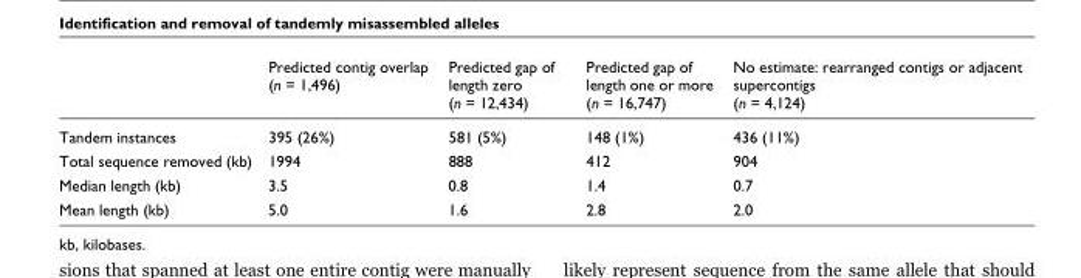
<table><thead><tr><td></td><td>Predicted contig overlap (n = 1,496)</td><td>Predicted gap of length zero (n = 12,434)</td><td>Predicted gap of length one or more (n = 16,747)</td><td>No estimate: rearranged contigs or adjacent supercontigs (n = 4,124)</td></tr></thead><tbody><tr><td>Tandem instances</td><td>395 (26%)</td><td>581 (5%)</td><td>148 (1%)</td><td>436 (11%)</td></tr><tr><td>Total sequence removed (kb)</td><td>1994</td><td>888</td><td>412</td><td>904</td></tr><tr><td>Median length (kb)</td><td>3.5</td><td>0.8</td><td>1.4</td><td>0.7</td></tr><tr><td>Mean length (kb)</td><td>5.0</td><td>1.6</td><td>2.8</td><td>2.0</td></tr></tbody></table>